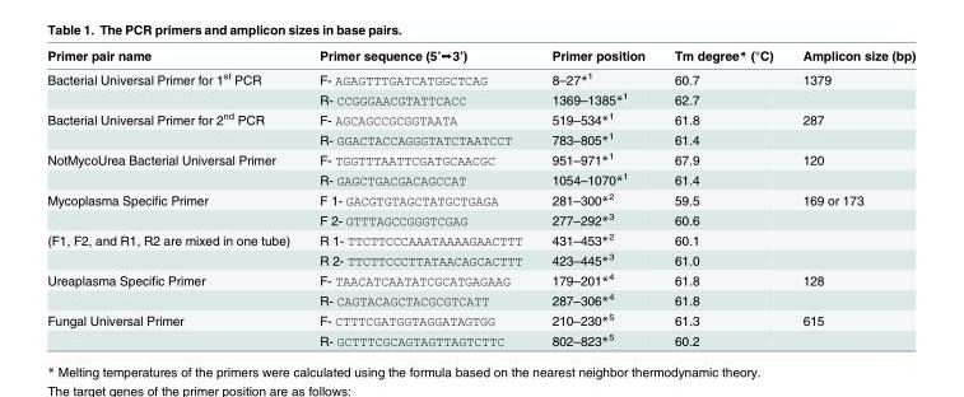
<table><thead><tr><td>Primer pair name</td><td>Primer sequence (5’➞3’)</td><td>Primer position</td><td>Tm degree* (°C)</td><td>Amplicon size (bp)</td></tr></thead><tbody><tr><td rowspan="2">Bacterial Universal Primer for 1<sup>st</sup> PCR</td><td>F- AGAGTTTGATCATGGCTCAG</td><td>8–27*<sup>1</sup></td><td>60.7</td><td>1379</td></tr><tr><td>R- CCGGGAACGTATTCACC</td><td>1369–1385*<sup>1</sup></td><td>62.7</td><td></td></tr><tr><td rowspan="2">Bacterial Universal Primer for 2<sup>nd</sup> PCR</td><td>F- AGCAGCCGCGGTAATA</td><td>519–534*<sup>1</sup></td><td>61.8</td><td>287</td></tr><tr><td>R- GGACTACCAGGGTATCTAATCCT</td><td>783–805*<sup>1</sup></td><td>61.4</td><td></td></tr><tr><td rowspan="2">NotMycoUrea Bacterial Universal Primer</td><td>F- TGGTTTAATTCGATGCAACGC</td><td>951–971*<sup>1</sup></td><td>67.9</td><td>120</td></tr><tr><td>R- GAGCTGACGACAGCCAT</td><td>1054–1070*<sup>1</sup></td><td>61.4</td><td></td></tr><tr><td rowspan="2">Mycoplasma Specific Primer</td><td>F 1- GACGTGTAGCTATGCTGAGA</td><td>281–300*<sup>2</sup></td><td>59.5</td><td>169 or 173</td></tr><tr><td>F 2- GTTTAGCCGGGTCGAG</td><td>277–292*<sup>3</sup></td><td>60.6</td><td></td></tr><tr><td rowspan="2">(F1, F2, and R1, R2 are mixed in one tube)</td><td>R 1- TTCTTCCCAAATAAAAGAACTTT</td><td>431–453*<sup>2</sup></td><td>60.1</td><td></td></tr><tr><td>R 2- TTCTTCCCTTATAACAGCACTTT</td><td>423–445*<sup>3</sup></td><td>61.0</td><td></td></tr><tr><td rowspan="2">Ureaplasma Specific Primer</td><td>F- TAACATCAATATCGCATGAGAAG</td><td>179–201*<sup>4</sup></td><td>61.8</td><td>128</td></tr><tr><td>R- CAGTACAGCTACGCGTCATT</td><td>287–306*<sup>4</sup></td><td>61.8</td><td></td></tr><tr><td rowspan="2">Fungal Universal Primer</td><td>F- CTTTCGATGGTAGGATAGTGG</td><td>210–230*<sup>5</sup></td><td>61.3</td><td>615</td></tr><tr><td>R- GCTTTCGCAGTAGTTAGTCTTC</td><td>802–823*<sup>5</sup></td><td>60.2</td><td></td></tr></tbody></table>